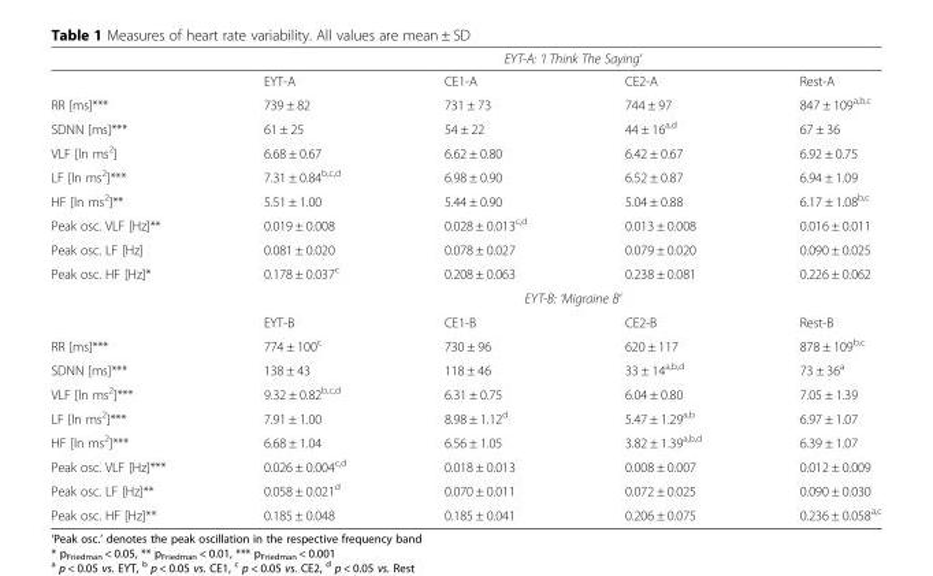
<table><thead><tr><td rowspan="2"></td><td colspan="4">EYT-A: ‘I Think The Saying’</td></tr><tr><td>EYT-A</td><td>CE1-A</td><td>CE2-A</td><td>Rest-A</td></tr></thead><tbody><tr><td>RR [ms]***</td><td>739 ± 82</td><td>731 ± 73</td><td>744 ± 97</td><td>847 ± 109<sup>a,b,c</sup></td></tr><tr><td>SDNN [ms]***</td><td>61 ± 25</td><td>54 ± 22</td><td>44 ± 16<sup>a,d</sup></td><td>67 ± 36</td></tr><tr><td>VLF [ln ms<sup>2</sup>]</td><td>6.68 ± 0.67</td><td>6.62 ± 0.80</td><td>6.42 ± 0.67</td><td>6.92 ± 0.75</td></tr><tr><td>LF [ln ms<sup>2</sup>]***</td><td>7.31 ± 0.84<sup>b,c,d</sup></td><td>6.98 ± 0.90</td><td>6.52 ± 0.87</td><td>6.94 ± 1.09</td></tr><tr><td>HF [ln ms<sup>2</sup>]**</td><td>5.51 ± 1.00</td><td>5.44 ± 0.90</td><td>5.04 ± 0.88</td><td>6.17 ± 1.08<sup>b,c</sup></td></tr><tr><td>Peak osc. VLF [Hz]**</td><td>0.019 ± 0.008</td><td>0.028 ± 0.013<sup>c,d</sup></td><td>0.013 ± 0.008</td><td>0.016 ± 0.011</td></tr><tr><td>Peak osc. LF [Hz]</td><td>0.081 ± 0.020</td><td>0.078 ± 0.027</td><td>0.079 ± 0.020</td><td>0.090 ± 0.025</td></tr><tr><td rowspan="3">Peak osc. HF [Hz]*</td><td>0.178 ± 0.037<sup>c</sup></td><td>0.208 ± 0.063</td><td>0.238 ± 0.081</td><td>0.226 ± 0.062</td></tr><tr><td colspan="4">EYT-B: ‘Migraine B’</td></tr><tr><td>EYT-B</td><td>CE1-B</td><td>CE2-B</td><td>Rest-B</td></tr><tr><td>RR [ms]***</td><td>774 ± 100<sup>c</sup></td><td>730 ± 96</td><td>620 ± 117</td><td>878 ± 109<sup>b,c</sup></td></tr><tr><td>SDNN [ms]***</td><td>138 ± 43</td><td>118 ± 46</td><td>33 ± 14<sup>a,b,d</sup></td><td>73 ± 36<sup>a</sup></td></tr><tr><td>VLF [ln ms<sup>2</sup>]***</td><td>9.32 ± 0.82<sup>b,c,d</sup></td><td>6.31 ± 0.75</td><td>6.04 ± 0.80</td><td>7.05 ± 1.39</td></tr><tr><td>LF [ln ms<sup>2</sup>]***</td><td>7.91 ± 1.00</td><td>8.98 ± 1.12<sup>d</sup></td><td>5.47 ± 1.29<sup>a,b</sup></td><td>6.97 ± 1.07</td></tr><tr><td>HF [ln ms<sup>2</sup>]***</td><td>6.68 ± 1.04</td><td>6.56 ± 1.05</td><td>3.82 ± 1.39<sup>a,b,d</sup></td><td>6.39 ± 1.07</td></tr><tr><td>Peak osc. VLF [Hz]***</td><td>0.026 ± 0.004<sup>c,d</sup></td><td>0.018 ± 0.013</td><td>0.008 ± 0.007</td><td>0.012 ± 0.009</td></tr><tr><td>Peak osc. LF [Hz]**</td><td>0.058 ± 0.021<sup>d</sup></td><td>0.070 ± 0.011</td><td>0.072 ± 0.025</td><td>0.090 ± 0.030</td></tr><tr><td>Peak osc. HF [Hz]**</td><td>0.185 ± 0.048</td><td>0.185 ± 0.041</td><td>0.206 ± 0.075</td><td>0.236 ± 0.058<sup>a,c</sup></td></tr></tbody></table>